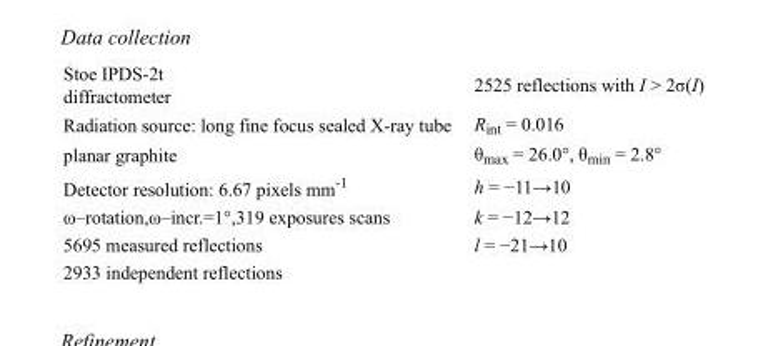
<table><tbody><tr><td>Stoe IPDS-2t diffractometer</td><td>2525 reflections with I &gt; 2σ(I)</td></tr><tr><td>Radiation source: long fine focus sealed X-ray tube</td><td>R<sub>int</sub> = 0.016</td></tr><tr><td>planar graphite</td><td>θ<sub>max</sub> = 26.0°, θ<sub>min</sub> = 2.8°</td></tr><tr><td>Detector resolution: 6.67 pixels mm<sup>-1</sup></td><td>h = −11→10</td></tr><tr><td>ω–rotation,ω–incr.=1°,319 exposures scans</td><td>k = −12→12</td></tr><tr><td>5695 measured reflections</td><td>l = −21→10</td></tr><tr><td>2933 independent reflections</td><td></td></tr></tbody></table>